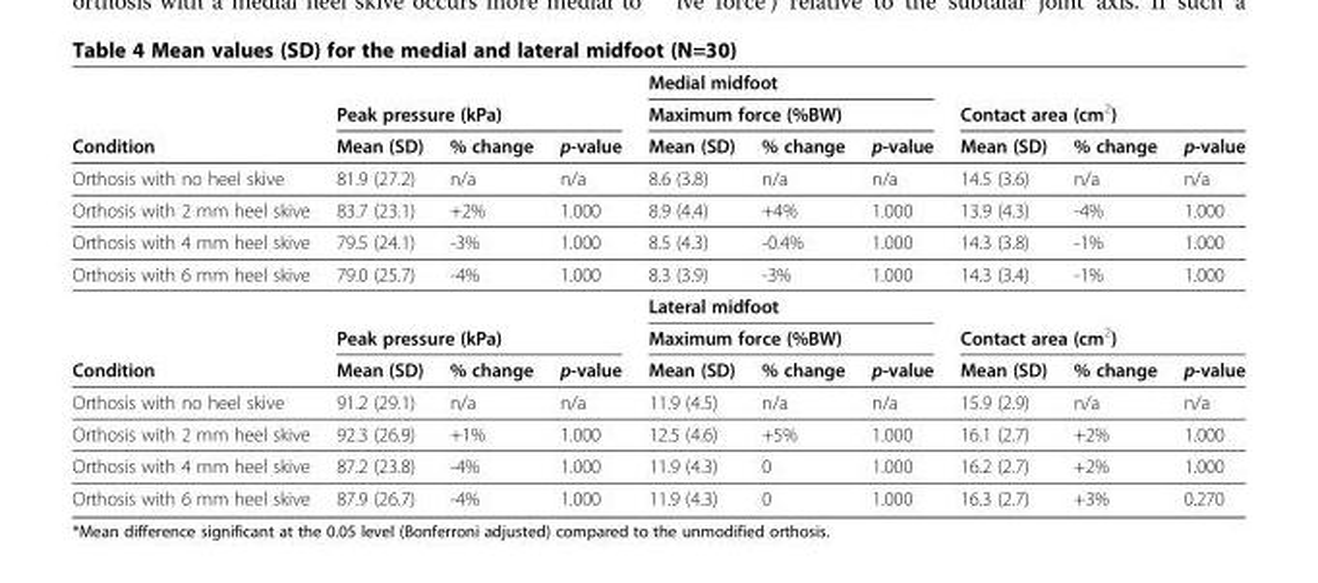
<table><thead><tr><td rowspan="3">Condition</td><td></td><td></td><td></td><td rowspan="2" colspan="3">Medial midfoot Maximum force (%BW)</td><td></td><td></td><td></td></tr><tr><td colspan="3">Peak pressure (kPa)</td><td colspan="3">Contact area (cm<sup>2</sup>)</td></tr><tr><td>Mean (SD)</td><td>% change</td><td>p-value</td><td>Mean (SD)</td><td>% change</td><td>p-value</td><td>Mean (SD)</td><td>% change</td><td>p-value</td></tr></thead><tbody><tr><td>Orthosis with no heel skive</td><td>81.9 (27.2)</td><td>n/a</td><td>n/a</td><td>8.6 (3.8)</td><td>n/a</td><td>n/a</td><td>14.5 (3.6)</td><td>n/a</td><td>n/a</td></tr><tr><td>Orthosis with 2 mm heel skive</td><td>83.7 (23.1)</td><td>+2%</td><td>1.000</td><td>8.9 (4.4)</td><td>+4%</td><td>1.000</td><td>13.9 (4.3)</td><td>-4%</td><td>1.000</td></tr><tr><td>Orthosis with 4 mm heel skive</td><td>79.5 (24.1)</td><td>-3%</td><td>1.000</td><td>8.5 (4.3)</td><td>-0.4%</td><td>1.000</td><td>14.3 (3.8)</td><td>-1%</td><td>1.000</td></tr><tr><td rowspan="3">Orthosis with 6 mm heel skive</td><td>79.0 (25.7)</td><td>-4%</td><td>1.000</td><td>8.3 (3.9)</td><td>-3%</td><td>1.000</td><td>14.3 (3.4)</td><td>-1%</td><td>1.000</td></tr><tr><td></td><td></td><td></td><td colspan="3">Lateral midfoot</td><td></td><td></td><td></td></tr><tr><td colspan="3">Peak pressure (kPa)</td><td colspan="3">Maximum force (%BW)</td><td colspan="3">Contact area (cm<sup>2</sup>)</td></tr><tr><td>Condition</td><td>Mean (SD)</td><td>% change</td><td>p-value</td><td>Mean (SD)</td><td>% change</td><td>p-value</td><td>Mean (SD)</td><td>% change</td><td>p-value</td></tr><tr><td>Orthosis with no heel skive</td><td>91.2 (29.1)</td><td>n/a</td><td>n/a</td><td>11.9 (4.5)</td><td>n/a</td><td>n/a</td><td>15.9 (2.9)</td><td>n/a</td><td>n/a</td></tr><tr><td>Orthosis with 2 mm heel skive</td><td>92.3 (26.9)</td><td>+1%</td><td>1.000</td><td>12.5 (4.6)</td><td>+5%</td><td>1.000</td><td>16.1 (2.7)</td><td>+2%</td><td>1.000</td></tr><tr><td>Orthosis with 4 mm heel skive</td><td>87.2 (23.8)</td><td>-4%</td><td>1.000</td><td>11.9 (4.3)</td><td>0</td><td>1.000</td><td>16.2 (2.7)</td><td>+2%</td><td>1.000</td></tr><tr><td>Orthosis with 6 mm heel skive</td><td>87.9 (26.7)</td><td>-4%</td><td>1.000</td><td>11.9 (4.3)</td><td>0</td><td>1.000</td><td>16.3 (2.7)</td><td>+3%</td><td>0.270</td></tr></tbody></table>